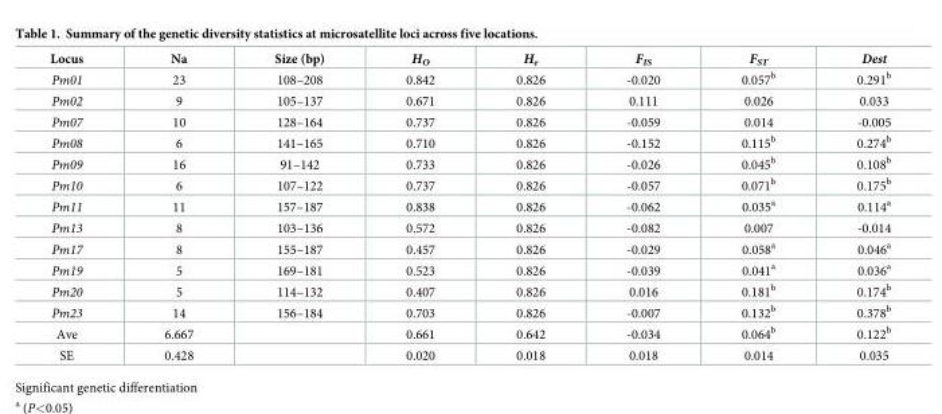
<table><thead><tr><td>Locus</td><td>Na</td><td>Size (bp)</td><td>H<sub>O</sub></td><td>H<sub>e</sub></td><td>F<sub>IS</sub></td><td>F<sub>ST</sub></td><td>Dest</td></tr></thead><tbody><tr><td>Pm01</td><td>23</td><td>108–208</td><td>0.842</td><td>0.826</td><td>-0.020</td><td>0.057<sup>b</sup></td><td>0.291<sup>b</sup></td></tr><tr><td>Pm02</td><td>9</td><td>105–137</td><td>0.671</td><td>0.826</td><td>0.111</td><td>0.026</td><td>0.033</td></tr><tr><td>Pm07</td><td>10</td><td>128–164</td><td>0.737</td><td>0.826</td><td>-0.059</td><td>0.014</td><td>-0.005</td></tr><tr><td>Pm08</td><td>6</td><td>141–165</td><td>0.710</td><td>0.826</td><td>-0.152</td><td>0.115<sup>b</sup></td><td>0.274<sup>b</sup></td></tr><tr><td>Pm09</td><td>16</td><td>91–142</td><td>0.733</td><td>0.826</td><td>-0.026</td><td>0.045<sup>b</sup></td><td>0.108<sup>b</sup></td></tr><tr><td>Pm10</td><td>6</td><td>107–122</td><td>0.737</td><td>0.826</td><td>-0.057</td><td>0.071<sup>b</sup></td><td>0.175<sup>b</sup></td></tr><tr><td>Pm11</td><td>11</td><td>157–187</td><td>0.838</td><td>0.826</td><td>-0.062</td><td>0.035<sup>a</sup></td><td>0.114<sup>a</sup></td></tr><tr><td>Pm13</td><td>8</td><td>103–136</td><td>0.572</td><td>0.826</td><td>-0.082</td><td>0.007</td><td>-0.014</td></tr><tr><td>Pm17</td><td>8</td><td>155–187</td><td>0.457</td><td>0.826</td><td>-0.029</td><td>0.058<sup>a</sup></td><td>0.046<sup>a</sup></td></tr><tr><td>Pm19</td><td>5</td><td>169–181</td><td>0.523</td><td>0.826</td><td>-0.039</td><td>0.041<sup>a</sup></td><td>0.036<sup>a</sup></td></tr><tr><td>Pm20</td><td>5</td><td>114–132</td><td>0.407</td><td>0.826</td><td>0.016</td><td>0.181<sup>b</sup></td><td>0.174<sup>b</sup></td></tr><tr><td>Pm23</td><td>14</td><td>156–184</td><td>0.703</td><td>0.826</td><td>-0.007</td><td>0.132<sup>b</sup></td><td>0.378<sup>b</sup></td></tr><tr><td>Ave</td><td>6.667</td><td></td><td>0.661</td><td>0.642</td><td>-0.034</td><td>0.064<sup>b</sup></td><td>0.122<sup>b</sup></td></tr><tr><td>SE</td><td>0.428</td><td></td><td>0.020</td><td>0.018</td><td>0.018</td><td>0.014</td><td>0.035</td></tr></tbody></table>